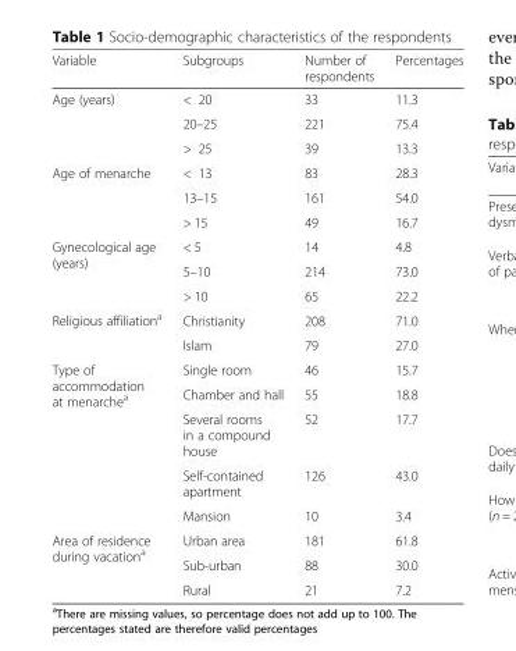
<table><thead><tr><td>Variable</td><td>Subgroups</td><td>Number of respondents</td><td>Percentages</td></tr></thead><tbody><tr><td rowspan="3">Age (years)</td><td>&lt; 20</td><td>33</td><td>11.3</td></tr><tr><td>20–25</td><td>221</td><td>75.4</td></tr><tr><td>&gt; 25</td><td>39</td><td>13.3</td></tr><tr><td rowspan="3">Age of menarche</td><td>&lt; 13</td><td>83</td><td>28.3</td></tr><tr><td>13–15</td><td>161</td><td>54.0</td></tr><tr><td>&gt; 15</td><td>49</td><td>16.7</td></tr><tr><td rowspan="3">Gynecological age (years)</td><td>&lt; 5</td><td>14</td><td>4.8</td></tr><tr><td>5–10</td><td>214</td><td>73.0</td></tr><tr><td>&gt; 10</td><td>65</td><td>22.2</td></tr><tr><td rowspan="2">Religious affiliation<sup>a</sup></td><td>Christianity</td><td>208</td><td>71.0</td></tr><tr><td>Islam</td><td>79</td><td>27.0</td></tr><tr><td rowspan="5">Type of accommodation at menarche<sup>a</sup></td><td>Single room</td><td>46</td><td>15.7</td></tr><tr><td>Chamber and hall</td><td>55</td><td>18.8</td></tr><tr><td>Several rooms in a compound house</td><td>52</td><td>17.7</td></tr><tr><td>Self-contained apartment</td><td>126</td><td>43.0</td></tr><tr><td>Mansion</td><td>10</td><td>3.4</td></tr><tr><td rowspan="3">Area of residence during vacation<sup>a</sup></td><td>Urban area</td><td>181</td><td>61.8</td></tr><tr><td>Sub-urban</td><td>88</td><td>30.0</td></tr><tr><td>Rural</td><td>21</td><td>7.2</td></tr></tbody></table>